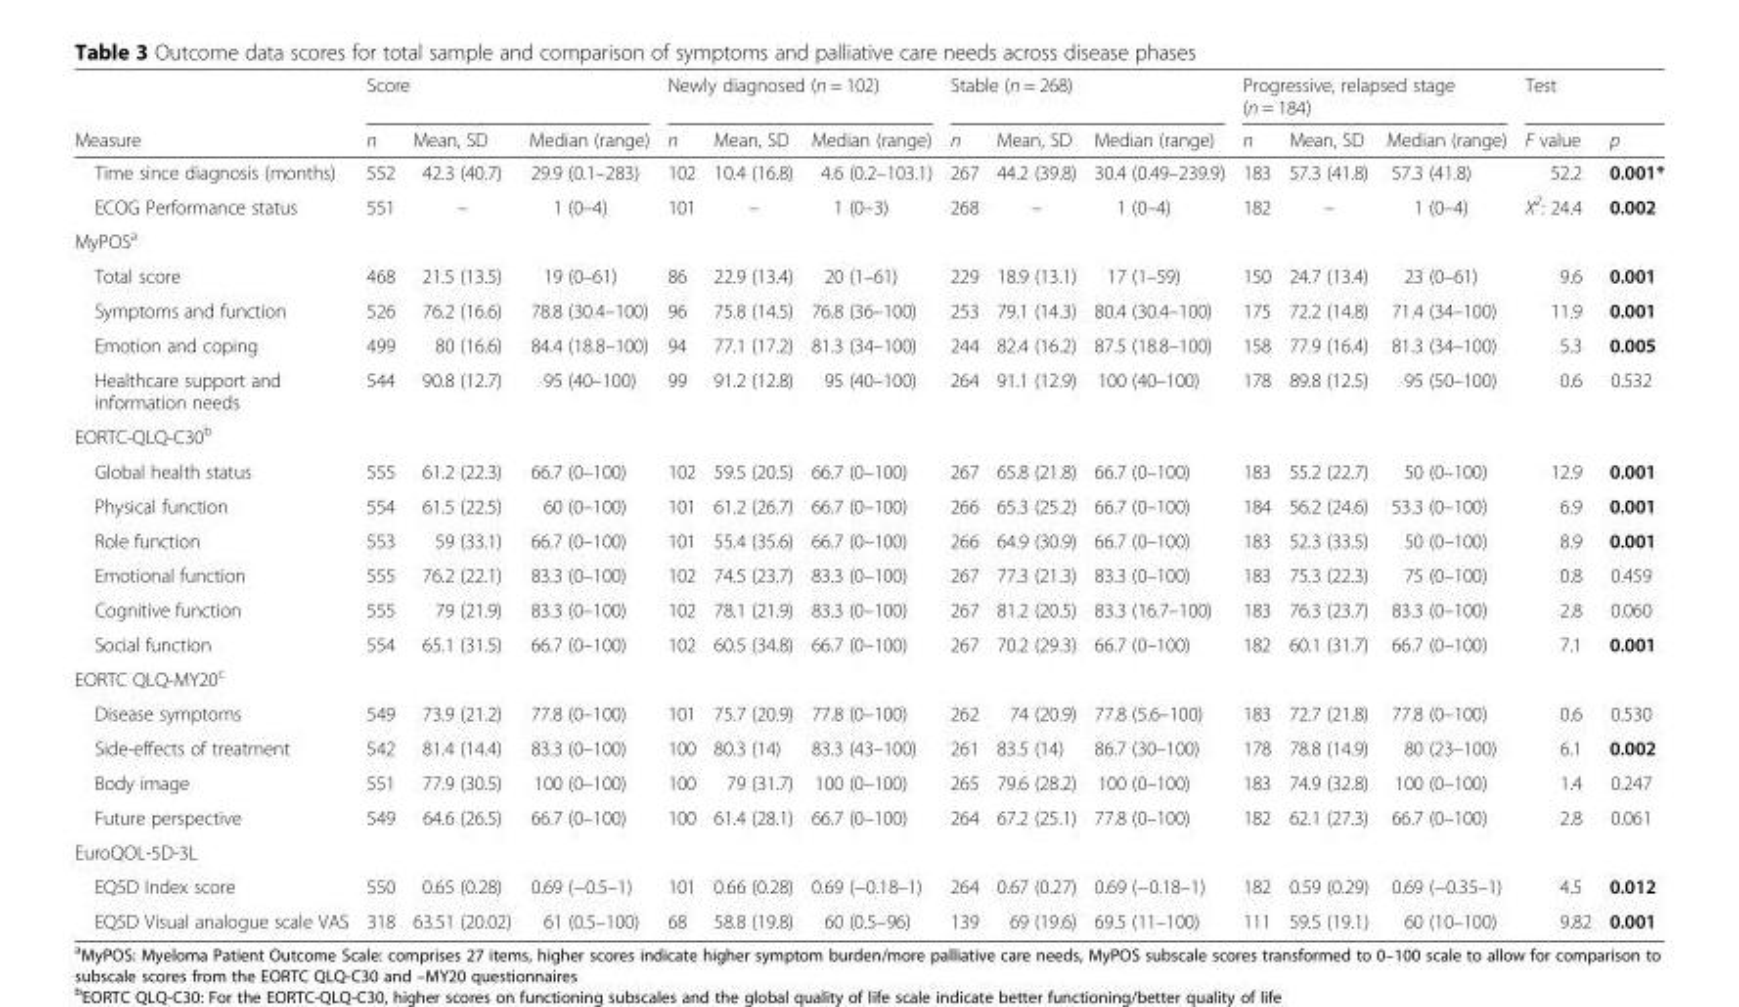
<table><thead><tr><td rowspan="2">Measure</td><td colspan="3">Score</td><td colspan="3">Newly diagnosed (n = 102)</td><td colspan="3">Stable (n = 268)</td><td colspan="3">Progressive, relapsed stage (n = 184)</td><td colspan="2">Test</td></tr><tr><td>n</td><td>Mean, SD</td><td>Median (range)</td><td>n</td><td>Mean, SD</td><td>Median (range)</td><td>n</td><td>Mean, SD</td><td>Median (range)</td><td>n</td><td>Mean, SD</td><td>Median (range)</td><td>F value</td><td>p</td></tr></thead><tbody><tr><td>Time since diagnosis (months)</td><td>552</td><td>42.3 (40.7)</td><td>29.9 (0.1–283)</td><td>102</td><td>10.4 (16.8)</td><td>4.6 (0.2–103.1)</td><td>267</td><td>44.2 (39.8)</td><td>30.4 (0.49–239.9)</td><td>183</td><td>57.3 (41.8)</td><td>57.3 (41.8)</td><td>52.2</td><td>0.001*</td></tr><tr><td>ECOG Performance status</td><td>551</td><td>–</td><td>1 (0–4)</td><td>101</td><td>–</td><td>1 (0–3)</td><td>268</td><td>–</td><td>1 (0–4)</td><td>182</td><td>–</td><td>1 (0–4)</td><td>X<sup>2</sup>: 24.4</td><td>0.002</td></tr><tr><td colspan="15">MyPOS<sup>a</sup></td></tr><tr><td>Total score</td><td>468</td><td>21.5 (13.5)</td><td>19 (0–61)</td><td>86</td><td>22.9 (13.4)</td><td>20 (1–61)</td><td>229</td><td>18.9 (13.1)</td><td>17 (1–59)</td><td>150</td><td>24.7 (13.4)</td><td>23 (0–61)</td><td>9.6</td><td>0.001</td></tr><tr><td>Symptoms and function</td><td>526</td><td>76.2 (16.6)</td><td>78.8 (30.4–100)</td><td>96</td><td>75.8 (14.5)</td><td>76.8 (36–100)</td><td>253</td><td>79.1 (14.3)</td><td>80.4 (30.4–100)</td><td>175</td><td>72.2 (14.8)</td><td>71.4 (34–100)</td><td>11.9</td><td>0.001</td></tr><tr><td>Emotion and coping</td><td>499</td><td>80 (16.6)</td><td>84.4 (18.8–100)</td><td>94</td><td>77.1 (17.2)</td><td>81.3 (34–100)</td><td>244</td><td>82.4 (16.2)</td><td>87.5 (18.8–100)</td><td>158</td><td>77.9 (16.4)</td><td>81.3 (34–100)</td><td>5.3</td><td>0.005</td></tr><tr><td>Healthcare support and information needs</td><td>544</td><td>90.8 (12.7)</td><td>95 (40–100)</td><td>99</td><td>91.2 (12.8)</td><td>95 (40–100)</td><td>264</td><td>91.1 (12.9)</td><td>100 (40–100)</td><td>178</td><td>89.8 (12.5)</td><td>95 (50–100)</td><td>0.6</td><td>0.532</td></tr><tr><td colspan="15">EORTC-QLQ-C30<sup>b</sup></td></tr><tr><td>Global health status</td><td>555</td><td>61.2 (22.3)</td><td>66.7 (0–100)</td><td>102</td><td>59.5 (20.5)</td><td>66.7 (0–100)</td><td>267</td><td>65.8 (21.8)</td><td>66.7 (0–100)</td><td>183</td><td>55.2 (22.7)</td><td>50 (0–100)</td><td>12.9</td><td>0.001</td></tr><tr><td>Physical function</td><td>554</td><td>61.5 (22.5)</td><td>60 (0–100)</td><td>101</td><td>61.2 (26.7)</td><td>66.7 (0–100)</td><td>266</td><td>65.3 (25.2)</td><td>66.7 (0–100)</td><td>184</td><td>56.2 (24.6)</td><td>53.3 (0–100)</td><td>6.9</td><td>0.001</td></tr><tr><td>Role function</td><td>553</td><td>59 (33.1)</td><td>66.7 (0–100)</td><td>101</td><td>55.4 (35.6)</td><td>66.7 (0–100)</td><td>266</td><td>64.9 (30.9)</td><td>66.7 (0–100)</td><td>183</td><td>52.3 (33.5)</td><td>50 (0–100)</td><td>8.9</td><td>0.001</td></tr><tr><td>Emotional function</td><td>555</td><td>76.2 (22.1)</td><td>83.3 (0–100)</td><td>102</td><td>74.5 (23.7)</td><td>83.3 (0–100)</td><td>267</td><td>77.3 (21.3)</td><td>83.3 (0–100)</td><td>183</td><td>75.3 (22.3)</td><td>75 (0–100)</td><td>0.8</td><td>0.459</td></tr><tr><td>Cognitive function</td><td>555</td><td>79 (21.9)</td><td>83.3 (0–100)</td><td>102</td><td>78.1 (21.9)</td><td>83.3 (0–100)</td><td>267</td><td>81.2 (20.5)</td><td>83.3 (16.7–100)</td><td>183</td><td>76.3 (23.7)</td><td>83.3 (0–100)</td><td>2.8</td><td>0.060</td></tr><tr><td>Social function</td><td>554</td><td>65.1 (31.5)</td><td>66.7 (0–100)</td><td>102</td><td>60.5 (34.8)</td><td>66.7 (0–100)</td><td>267</td><td>70.2 (29.3)</td><td>66.7 (0–100)</td><td>182</td><td>60.1 (31.7)</td><td>66.7 (0–100)</td><td>7.1</td><td>0.001</td></tr><tr><td colspan="15">EORTC QLQ-MY20<sup>c</sup></td></tr><tr><td>Disease symptoms</td><td>549</td><td>73.9 (21.2)</td><td>77.8 (0–100)</td><td>101</td><td>75.7 (20.9)</td><td>77.8 (0–100)</td><td>262</td><td>74 (20.9)</td><td>77.8 (5.6–100)</td><td>183</td><td>72.7 (21.8)</td><td>77.8 (0–100)</td><td>0.6</td><td>0.530</td></tr><tr><td>Side-effects of treatment</td><td>542</td><td>81.4 (14.4)</td><td>83.3 (0–100)</td><td>100</td><td>80.3 (14)</td><td>83.3 (43–100)</td><td>261</td><td>83.5 (14)</td><td>86.7 (30–100)</td><td>178</td><td>78.8 (14.9)</td><td>80 (23–100)</td><td>6.1</td><td>0.002</td></tr><tr><td>Body image</td><td>551</td><td>77.9 (30.5)</td><td>100 (0–100)</td><td>100</td><td>79 (31.7)</td><td>100 (0–100)</td><td>265</td><td>79.6 (28.2)</td><td>100 (0–100)</td><td>183</td><td>74.9 (32.8)</td><td>100 (0–100)</td><td>1.4</td><td>0.247</td></tr><tr><td>Future perspective</td><td>549</td><td>64.6 (26.5)</td><td>66.7 (0–100)</td><td>100</td><td>61.4 (28.1)</td><td>66.7 (0–100)</td><td>264</td><td>67.2 (25.1)</td><td>77.8 (0–100)</td><td>182</td><td>62.1 (27.3)</td><td>66.7 (0–100)</td><td>2.8</td><td>0.061</td></tr><tr><td colspan="15">EuroQOL-5D-3L</td></tr><tr><td>EQ5D Index score</td><td>550</td><td>0.65 (0.28)</td><td>0.69 (−0.5–1)</td><td>101</td><td>0.66 (0.28)</td><td>0.69 (−0.18–1)</td><td>264</td><td>0.67 (0.27)</td><td>0.69 (−0.18–1)</td><td>182</td><td>0.59 (0.29)</td><td>0.69 (−0.35–1)</td><td>4.5</td><td>0.012</td></tr><tr><td>EQ5D Visual analogue scale VAS</td><td>318</td><td>63.51 (20.02)</td><td>61 (0.5–100)</td><td>68</td><td>58.8 (19.8)</td><td>60 (0.5–96)</td><td>139</td><td>69 (19.6)</td><td>69.5 (11–100)</td><td>111</td><td>59.5 (19.1)</td><td>60 (10–100)</td><td>9.82</td><td>0.001</td></tr></tbody></table>